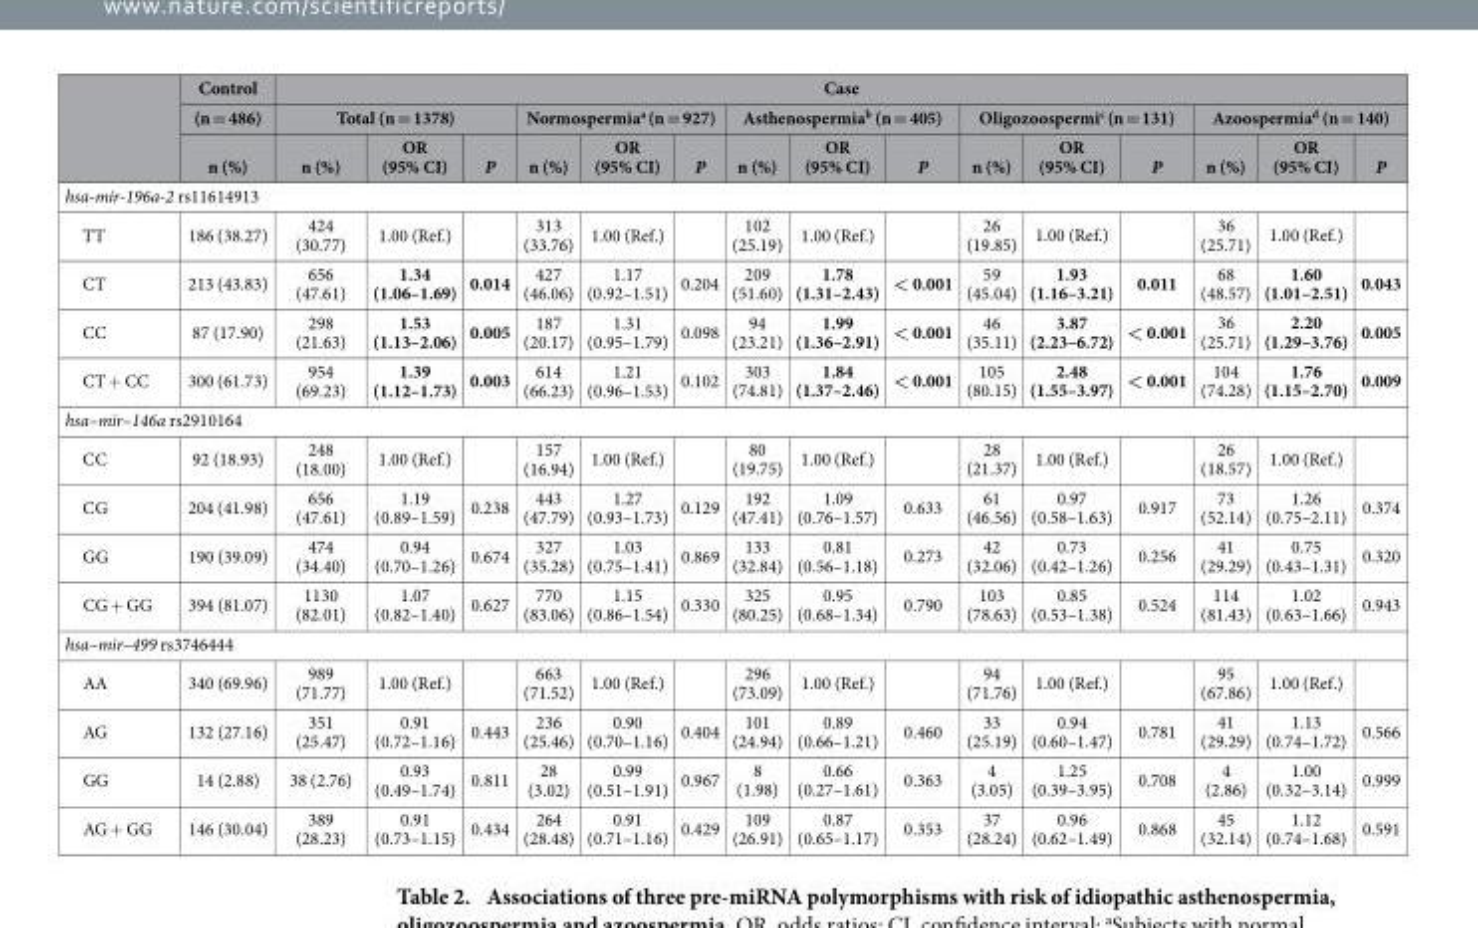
<table><thead><tr><td rowspan="3"></td><td rowspan="3">Control (n = 486) n (%)</td><td colspan="15">Case</td></tr><tr><td colspan="3">Total (n = 1378)</td><td colspan="3">Normospermia<sup>a</sup> (n = 927)</td><td colspan="3">Asthenospermia<sup>b</sup> (n = 405)</td><td colspan="3">Oligozoospermi<sup>c</sup> (n = 131)</td><td colspan="3">Azoospermia<sup>d</sup> (n = 140)</td></tr><tr><td>n (%)</td><td>OR (95% CI)</td><td>P</td><td>n (%)</td><td>OR (95% CI)</td><td>P</td><td>n (%)</td><td>OR (95% CI)</td><td>P</td><td>n (%)</td><td>OR (95% CI)</td><td>P</td><td>n (%)</td><td>OR (95% CI)</td><td>P</td></tr></thead><tbody><tr><td colspan="17">hsa-mir-196a-2 rs11614913</td></tr><tr><td>TT</td><td>186 (38.27)</td><td>424 (30.77)</td><td>1.00 (Ref.)</td><td></td><td>313 (33.76)</td><td>1.00 (Ref.)</td><td></td><td>102 (25.19)</td><td>1.00 (Ref.)</td><td></td><td>26 (19.85)</td><td>1.00 (Ref.)</td><td></td><td>36 (25.71)</td><td>1.00 (Ref.)</td><td></td></tr><tr><td>CT</td><td>213 (43.83)</td><td>656 (47.61)</td><td>1.34 (1.06–1.69)</td><td>0.014</td><td>427 (46.06)</td><td>1.17 (0.92–1.51)</td><td>0.204</td><td>209 (51.60)</td><td>1.78 (1.31–2.43)</td><td>&lt; 0.001</td><td>59 (45.04)</td><td>1.93 (1.16–3.21)</td><td>0.011</td><td>68 (48.57)</td><td>1.60 (1.01–2.51)</td><td>0.043</td></tr><tr><td>CC</td><td>87 (17.90)</td><td>298 (21.63)</td><td>1.53 (1.13–2.06)</td><td>0.005</td><td>187 (20.17)</td><td>1.31 (0.95–1.79)</td><td>0.098</td><td>94 (23.21)</td><td>1.99 (1.36–2.91)</td><td>&lt; 0.001</td><td>46 (35.11)</td><td>3.87 (2.23–6.72)</td><td>&lt; 0.001</td><td>36 (25.71)</td><td>2.20 (1.29–3.76)</td><td>0.005</td></tr><tr><td>CT + CC</td><td>300 (61.73)</td><td>954 (69.23)</td><td>1.39 (1.12–1.73)</td><td>0.003</td><td>614 (66.23)</td><td>1.21 (0.96–1.53)</td><td>0.102</td><td>303 (74.81)</td><td>1.84 (1.37–2.46)</td><td>&lt; 0.001</td><td>105 (80.15)</td><td>2.48 (1.55–3.97)</td><td>&lt; 0.001</td><td>104 (74.28)</td><td>1.76 (1.15–2.70)</td><td>0.009</td></tr><tr><td colspan="17">hsa–mir–146a rs2910164</td></tr><tr><td>CC</td><td>92 (18.93)</td><td>248 (18.00)</td><td>1.00 (Ref.)</td><td></td><td>157 (16.94)</td><td>1.00 (Ref.)</td><td></td><td>80 (19.75)</td><td>1.00 (Ref.)</td><td></td><td>28 (21.37)</td><td>1.00 (Ref.)</td><td></td><td>26 (18.57)</td><td>1.00 (Ref.)</td><td></td></tr><tr><td>CG</td><td>204 (41.98)</td><td>656 (47.61)</td><td>1.19 (0.89–1.59)</td><td>0.238</td><td>443 (47.79)</td><td>1.27 (0.93–1.73)</td><td>0.129</td><td>192 (47.41)</td><td>1.09 (0.76–1.57)</td><td>0.633</td><td>61 (46.56)</td><td>0.97 (0.58–1.63)</td><td>0.917</td><td>73 (52.14)</td><td>1.26 (0.75–2.11)</td><td>0.374</td></tr><tr><td>GG</td><td>190 (39.09)</td><td>474 (34.40)</td><td>0.94 (0.70–1.26)</td><td>0.674</td><td>327 (35.28)</td><td>1.03 (0.75–1.41)</td><td>0.869</td><td>133 (32.84)</td><td>0.81 (0.56–1.18)</td><td>0.273</td><td>42 (32.06)</td><td>0.73 (0.42–1.26)</td><td>0.256</td><td>41 (29.29)</td><td>0.75 (0.43–1.31)</td><td>0.320</td></tr><tr><td>CG + GG</td><td>394 (81.07)</td><td>1130 (82.01)</td><td>1.07 (0.82–1.40)</td><td>0.627</td><td>770 (83.06)</td><td>1.15 (0.86–1.54)</td><td>0.330</td><td>325 (80.25)</td><td>0.95 (0.68–1.34)</td><td>0.790</td><td>103 (78.63)</td><td>0.85 (0.53–1.38)</td><td>0.524</td><td>114 (81.43)</td><td>1.02 (0.63–1.66)</td><td>0.943</td></tr><tr><td colspan="17">hsa–mir–499 rs3746444</td></tr><tr><td>AA</td><td>340 (69.96)</td><td>989 (71.77)</td><td>1.00 (Ref.)</td><td></td><td>663 (71.52)</td><td>1.00 (Ref.)</td><td></td><td>296 (73.09)</td><td>1.00 (Ref.)</td><td></td><td>94 (71.76)</td><td>1.00 (Ref.)</td><td></td><td>95 (67.86)</td><td>1.00 (Ref.)</td><td></td></tr><tr><td>AG</td><td>132 (27.16)</td><td>351 (25.47)</td><td>0.91 (0.72–1.16)</td><td>0.443</td><td>236 (25.46)</td><td>0.90 (0.70–1.16)</td><td>0.404</td><td>101 (24.94)</td><td>0.89 (0.66–1.21)</td><td>0.460</td><td>33 (25.19)</td><td>0.94 (0.60–1.47)</td><td>0.781</td><td>41 (29.29)</td><td>1.13 (0.74–1.72)</td><td>0.566</td></tr><tr><td>GG</td><td>14 (2.88)</td><td>38 (2.76)</td><td>0.93 (0.49–1.74)</td><td>0.811</td><td>28 (3.02)</td><td>0.99 (0.51–1.91)</td><td>0.967</td><td>8 (1.98)</td><td>0.66 (0.27–1.61)</td><td>0.363</td><td>4 (3.05)</td><td>1.25 (0.39–3.95)</td><td>0.708</td><td>4 (2.86)</td><td>1.00 (0.32–3.14)</td><td>0.999</td></tr><tr><td>AG + GG</td><td>146 (30.04)</td><td>389 (28.23)</td><td>0.91 (0.73–1.15)</td><td>0.434</td><td>264 (28.48)</td><td>0.91 (0.71–1.16)</td><td>0.429</td><td>109 (26.91)</td><td>0.87 (0.65–1.17)</td><td>0.353</td><td>37 (28.24)</td><td>0.96 (0.62–1.49)</td><td>0.868</td><td>45 (32.14)</td><td>1.12 (0.74–1.68)</td><td>0.591</td></tr></tbody></table>